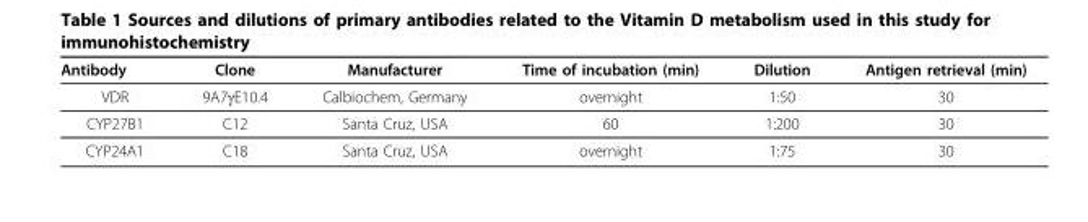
<table><thead><tr><td>Antibody</td><td>Clone</td><td>Manufacturer</td><td>Time of incubation (min)</td><td>Dilution</td><td>Antigen retrieval (min)</td></tr></thead><tbody><tr><td>VDR</td><td>9A7γE10.4</td><td>Calbiochem, Germany</td><td>overnight</td><td>1:50</td><td>30</td></tr><tr><td>CYP27B1</td><td>C12</td><td>Santa Cruz, USA</td><td>60</td><td>1:200</td><td>30</td></tr><tr><td>CYP24A1</td><td>C18</td><td>Santa Cruz, USA</td><td>overnight</td><td>1:75</td><td>30</td></tr></tbody></table>